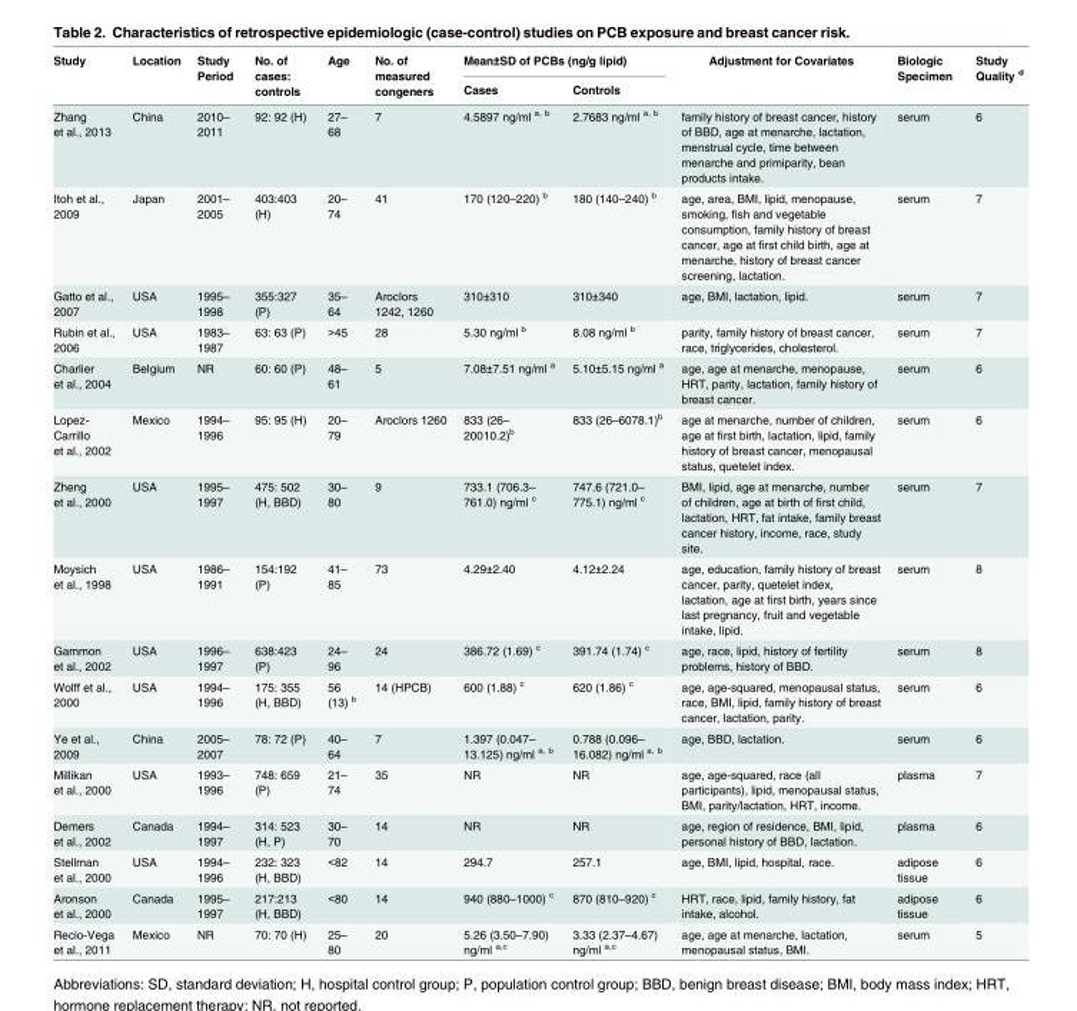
<table><thead><tr><td rowspan="2">Study</td><td rowspan="2">Location</td><td rowspan="2">Study Period</td><td rowspan="2">No. of cases: controls</td><td rowspan="2">Age</td><td rowspan="2">No. of measured congeners</td><td colspan="2">Mean±SD of PCBs (ng/g lipid)</td><td rowspan="2">Adjustment for Covariates</td><td rowspan="2">Biologic Specimen</td><td rowspan="2">Study Quality <sup>d</sup></td></tr><tr><td>Cases</td><td>Controls</td></tr></thead><tbody><tr><td>Zhang et al., 2013</td><td>China</td><td>2010– 2011</td><td>92: 92 (H)</td><td>27– 68</td><td>7</td><td>4.5897 ng/ml <sup>a, b</sup></td><td>2.7683 ng/ml <sup>a, b</sup></td><td>family history of breast cancer, history of BBD, age at menarche, lactation, menstrual cycle, time between menarche and primiparity, bean products intake.</td><td>serum</td><td>6</td></tr><tr><td>Itoh et al., 2009</td><td>Japan</td><td>2001– 2005</td><td>403:403 (H)</td><td>20– 74</td><td>41</td><td>170 (120–220) <sup>b</sup></td><td>180 (140–240) <sup>b</sup></td><td>age, area, BMI, lipid, menopause, smoking, fish and vegetable consumption, family history of breast cancer, age at first child birth, age at menarche, history of breast cancer screening, lactation.</td><td>serum</td><td>7</td></tr><tr><td>Gatto et al., 2007</td><td>USA</td><td>1995– 1998</td><td>355:327 (P)</td><td>35– 64</td><td>Aroclors 1242, 1260</td><td>310±310</td><td>310±340</td><td>age, BMI, lactation, lipid.</td><td>serum</td><td>7</td></tr><tr><td>Rubin et al., 2006</td><td>USA</td><td>1983– 1987</td><td>63: 63 (P)</td><td>&gt;45</td><td>28</td><td>5.30 ng/ml <sup>b</sup></td><td>8.08 ng/ml <sup>b</sup></td><td>parity, family history of breast cancer, race, triglycerides, cholesterol.</td><td>serum</td><td>7</td></tr><tr><td>Charlier et al., 2004</td><td>Belgium</td><td>NR</td><td>60: 60 (P)</td><td>48– 61</td><td>5</td><td>7.08±7.51 ng/ml <sup>a</sup></td><td>5.10±5.15 ng/ml <sup>a</sup></td><td>age, age at menarche, menopause, HRT, parity, lactation, family history of breast cancer.</td><td>serum</td><td>6</td></tr><tr><td>Lopez- Carrillo et al., 2002</td><td>Mexico</td><td>1994– 1996</td><td>95: 95 (H)</td><td>20– 79</td><td>Aroclors 1260</td><td>833 (26– 20010.2)<sup>b</sup></td><td>833 (26–6078.1)<sup>b</sup></td><td>age at menarche, number of children, age at first birth, lactation, lipid, family history of breast cancer, menopausal status, quetelet index.</td><td>serum</td><td>6</td></tr><tr><td>Zheng et al., 2000</td><td>USA</td><td>1995– 1997</td><td>475: 502 (H, BBD)</td><td>30– 80</td><td>9</td><td>733.1 (706.3– 761.0) ng/ml <sup>c</sup></td><td>747.6 (721.0– 775.1) ng/ml <sup>c</sup></td><td>BMI, lipid, age at menarche, number of children, age at birth of first child, lactation, HRT, fat intake, family breast cancer history, income, race, study site.</td><td>serum</td><td>7</td></tr><tr><td>Moysich et al., 1998</td><td>USA</td><td>1986– 1991</td><td>154:192 (P)</td><td>41– 85</td><td>73</td><td>4.29±2.40</td><td>4.12±2.24</td><td>age, education, family history of breast cancer, parity, quetelet index, lactation, age at first birth, years since last pregnancy, fruit and vegetable intake, lipid.</td><td>serum</td><td>8</td></tr><tr><td>Gammon et al., 2002</td><td>USA</td><td>1996– 1997</td><td>638:423 (P)</td><td>24– 96</td><td>24</td><td>386.72 (1.69) <sup>c</sup></td><td>391.74 (1.74) <sup>c</sup></td><td>age, race, lipid, history of fertility problems, history of BBD.</td><td>serum</td><td>8</td></tr><tr><td>Wolff et al., 2000</td><td>USA</td><td>1994– 1996</td><td>175: 355 (H, BBD)</td><td>56 (13) <sup>b</sup></td><td>14 (HPCB)</td><td>600 (1.88) <sup>c</sup></td><td>620 (1.86) <sup>c</sup></td><td>age, age-squared, menopausal status, race, BMI, lipid, family history of breast cancer, lactation, parity.</td><td>serum</td><td>6</td></tr><tr><td>Ye et al., 2009</td><td>China</td><td>2005– 2007</td><td>78: 72 (P)</td><td>40– 64</td><td>7</td><td>1.397 (0.047– 13.125) ng/ml <sup>a, b</sup></td><td>0.788 (0.096– 16.082) ng/ml <sup>a, b</sup></td><td>age, BBD, lactation.</td><td>serum</td><td>6</td></tr><tr><td>Millikan et al., 2000</td><td>USA</td><td>1993– 1996</td><td>748: 659 (P)</td><td>21– 74</td><td>35</td><td>NR</td><td>NR</td><td>age, age-squared, race (all participants), lipid, menopausal status, BMI, parity/lactation, HRT, income.</td><td>plasma</td><td>7</td></tr><tr><td>Demers et al., 2002</td><td>Canada</td><td>1994– 1997</td><td>314: 523 (H, P)</td><td>30– 70</td><td>14</td><td>NR</td><td>NR</td><td>age, region of residence, BMI, lipid, personal history of BBD, lactation.</td><td>plasma</td><td>6</td></tr><tr><td>Stellman et al., 2000</td><td>USA</td><td>1994– 1996</td><td>232: 323 (H, BBD)</td><td>&lt;82</td><td>14</td><td>294.7</td><td>257.1</td><td>age, BMI, lipid, hospital, race.</td><td>adipose tissue</td><td>6</td></tr><tr><td>Aronson et al., 2000</td><td>Canada</td><td>1995– 1997</td><td>217:213 (H, BBD)</td><td>&lt;80</td><td>14</td><td>940 (880–1000) <sup>c</sup></td><td>870 (810–920) <sup>c</sup></td><td>HRT, race, lipid, family history, fat intake, alcohol.</td><td>adipose tissue</td><td>6</td></tr><tr><td>Recio-Vega et al., 2011</td><td>Mexico</td><td>NR</td><td>70: 70 (H)</td><td>25– 80</td><td>20</td><td>5.26 (3.50–7.90) ng/ml <sup>a,c</sup></td><td>3.33 (2.37–4.67) ng/ml <sup>a,c</sup></td><td>age, age at menarche, lactation, menopausal status, BMI.</td><td>serum</td><td>5</td></tr></tbody></table>